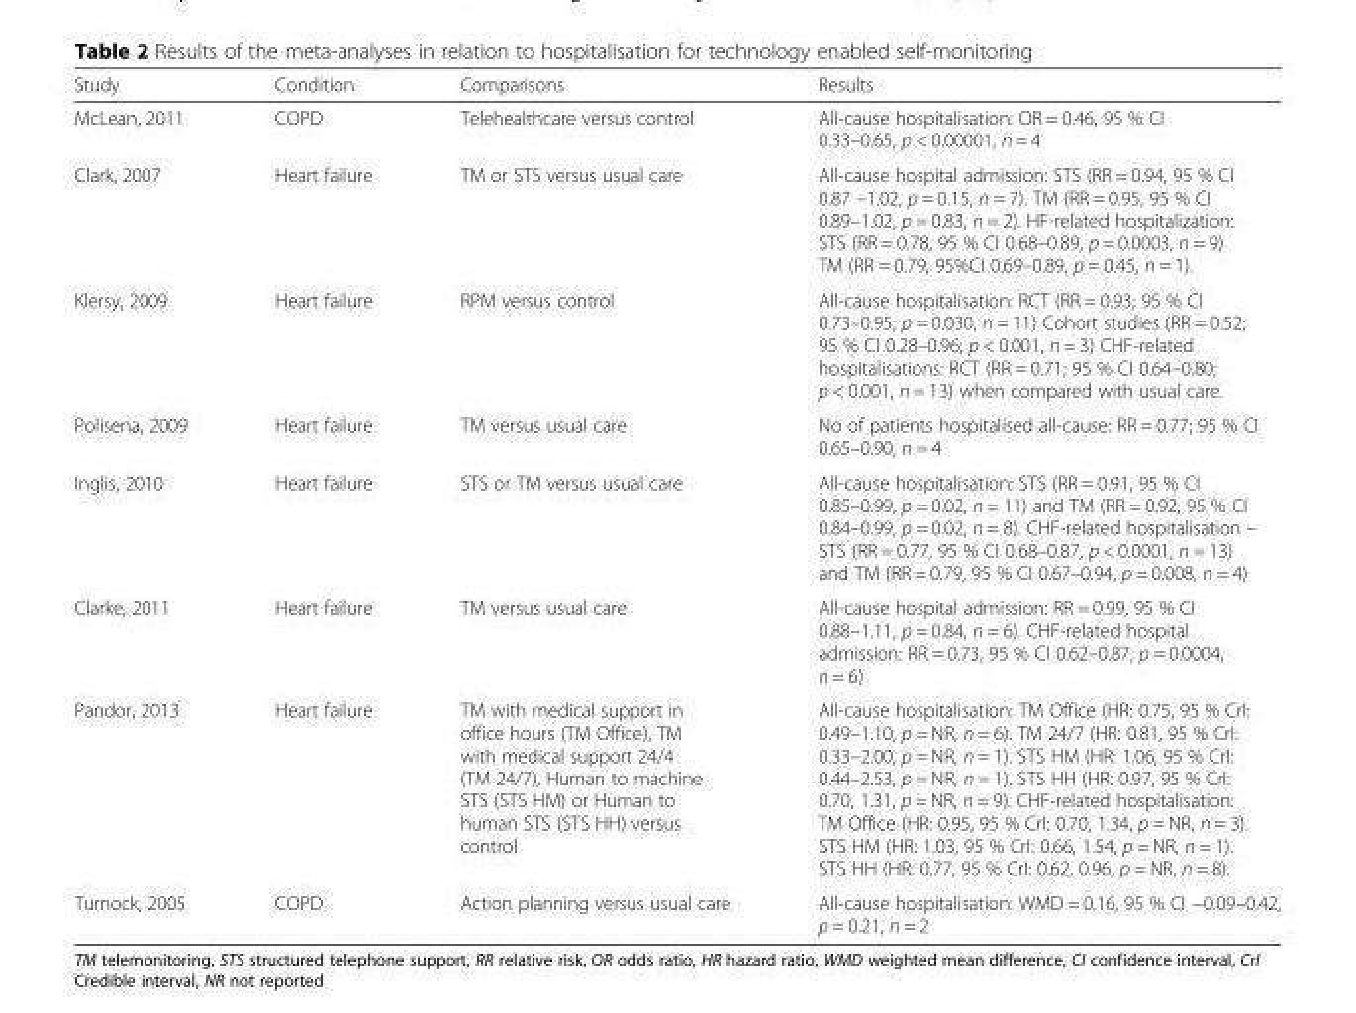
<table><thead><tr><td>Study</td><td>Condition</td><td>Comparisons</td><td>Results</td></tr></thead><tbody><tr><td>McLean, 2011</td><td>COPD</td><td>Telehealthcare versus control</td><td>All-cause hospitalisation: OR = 0.46, 95 % CI 0.33–0.65, p &lt; 0.00001, n = 4</td></tr><tr><td>Clark, 2007</td><td>Heart failure</td><td>TM or STS versus usual care</td><td>All-cause hospital admission: STS (RR = 0.94, 95 % CI 0.87 –1.02, p = 0.15, n = 7). TM (RR = 0.95, 95 % CI 0.89–1.02, p = 0.83, n = 2). HF-related hospitalization: STS (RR = 0.78, 95 % CI 0.68–0.89, p = 0.0003, n = 9) TM (RR = 0.79, 95%CI 0.69–0.89, p = 0.45, n = 1).</td></tr><tr><td>Klersy, 2009</td><td>Heart failure</td><td>RPM versus control</td><td>All-cause hospitalisation: RCT (RR = 0.93; 95 % CI 0.73–0.95; p = 0.030, n = 11) Cohort studies (RR = 0.52; 95 % CI 0.28–0.96; p &lt; 0.001, n = 3) CHF-related hospitalisations: RCT (RR = 0.71; 95 % CI 0.64–0.80; p &lt; 0.001, n = 13) when compared with usual care.</td></tr><tr><td>Polisena, 2009</td><td>Heart failure</td><td>TM versus usual care</td><td>No of patients hospitalised all-cause: RR = 0.77; 95 % CI 0.65–0.90, n = 4</td></tr><tr><td>Inglis, 2010</td><td>Heart failure</td><td>STS or TM versus usual care</td><td>All-cause hospitalisation: STS (RR = 0.91, 95 % CI 0.85–0.99, p = 0.02, n = 11) and TM (RR = 0.92, 95 % CI 0.84–0.99, p = 0.02, n = 8). CHF-related hospitalisation – STS (RR = 0.77, 95 % CI 0.68–0.87, p &lt; 0.0001, n = 13) and TM (RR = 0.79, 95 % CI 0.67–0.94, p = 0.008, n = 4)</td></tr><tr><td>Clarke, 2011</td><td>Heart failure</td><td>TM versus usual care</td><td>All-cause hospital admission: RR = 0.99, 95 % CI 0.88–1.11, p = 0.84, n = 6). CHF-related hospital admission: RR = 0.73, 95 % CI 0.62–0.87, p = 0.0004, n = 6)</td></tr><tr><td>Pandor, 2013</td><td>Heart failure</td><td>TM with medical support in office hours (TM Office), TM with medical support 24/4 (TM 24/7), Human to machine STS (STS HM) or Human to human STS (STS HH) versus control</td><td>All-cause hospitalisation: TM Office (HR: 0.75, 95 % CrI: 0.49–1.10, p = NR, n = 6). TM 24/7 (HR: 0.81, 95 % CrI: 0.33–2.00, p = NR, n = 1). STS HM (HR: 1.06, 95 % CrI: 0.44–2.53, p = NR, n = 1). STS HH (HR: 0.97, 95 % CrI: 0.70, 1.31, p = NR, n = 9). CHF-related hospitalisation: TM Office (HR: 0.95, 95 % CrI: 0.70, 1.34, p = NR, n = 3). STS HM (HR: 1.03, 95 % CrI: 0.66, 1.54, p = NR, n = 1). STS HH (HR: 0.77, 95 % CrI: 0.62, 0.96, p = NR, n = 8).</td></tr><tr><td>Turnock, 2005</td><td>COPD</td><td>Action planning versus usual care</td><td>All-cause hospitalisation: WMD = 0.16, 95 % CI −0.09–0.42, p = 0.21, n = 2</td></tr></tbody></table>